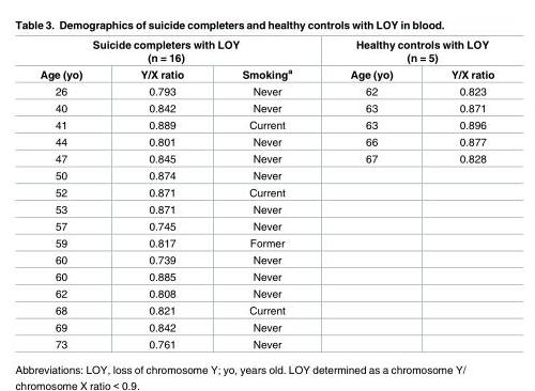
<table><thead><tr><td colspan="3">Suicide completers with LOY (n = 16)</td><td colspan="2">Healthy controls with LOY (n = 5)</td></tr><tr><td>Age (yo)</td><td>Y/X ratio</td><td>Smoking<sup>a</sup></td><td>Age (yo)</td><td>Y/X ratio</td></tr></thead><tbody><tr><td>26</td><td>0.793</td><td>Never</td><td>62</td><td>0.823</td></tr><tr><td>40</td><td>0.842</td><td>Never</td><td>63</td><td>0.871</td></tr><tr><td>41</td><td>0.889</td><td>Current</td><td>63</td><td>0.896</td></tr><tr><td>44</td><td>0.801</td><td>Never</td><td>66</td><td>0.877</td></tr><tr><td>47</td><td>0.845</td><td>Never</td><td>67</td><td>0.828</td></tr><tr><td>50</td><td>0.874</td><td>Never</td><td></td><td></td></tr><tr><td>52</td><td>0.871</td><td>Current</td><td></td><td></td></tr><tr><td>53</td><td>0.871</td><td>Never</td><td></td><td></td></tr><tr><td>57</td><td>0.745</td><td>Never</td><td></td><td></td></tr><tr><td>59</td><td>0.817</td><td>Former</td><td></td><td></td></tr><tr><td>60</td><td>0.739</td><td>Never</td><td></td><td></td></tr><tr><td>60</td><td>0.885</td><td>Never</td><td></td><td></td></tr><tr><td>62</td><td>0.808</td><td>Never</td><td></td><td></td></tr><tr><td>68</td><td>0.821</td><td>Current</td><td></td><td></td></tr><tr><td>69</td><td>0.842</td><td>Never</td><td></td><td></td></tr><tr><td>73</td><td>0.761</td><td>Never</td><td></td><td></td></tr></tbody></table>